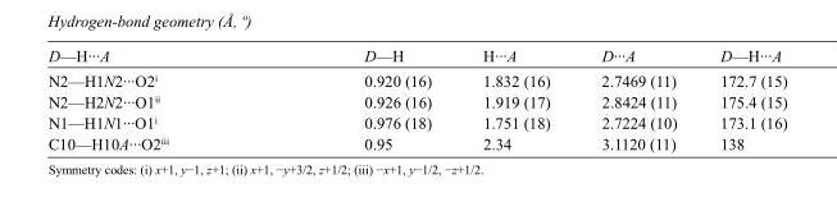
<table><tbody><tr><td>D—H···A</td><td>D—H</td><td>H···A</td><td>D···A</td><td>D—H···A</td></tr><tr><td>N2—H1N2···O2<sup>i</sup></td><td>0.920 (16)</td><td>1.832 (16)</td><td>2.7469 (11)</td><td>172.7 (15)</td></tr><tr><td>N2—H2N2···O1<sup>ii</sup></td><td>0.926 (16)</td><td>1.919 (17)</td><td>2.8424 (11)</td><td>175.4 (15)</td></tr><tr><td>N1—H1N1···O1<sup>i</sup></td><td>0.976 (18)</td><td>1.751 (18)</td><td>2.7224 (10)</td><td>173.1 (16)</td></tr><tr><td>C10—H10A···O2<sup>iii</sup></td><td>0.95</td><td>2.34</td><td>3.1120 (11)</td><td>138</td></tr></tbody></table>